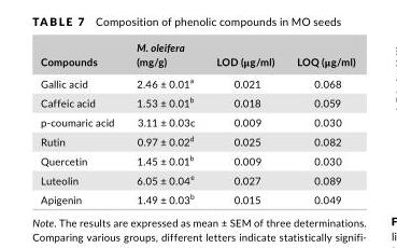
<table><thead><tr><td>Compounds</td><td>M. oleifera (mg/g)</td><td>LOD (μg/ml)</td><td>LOQ (μg/ml)</td></tr></thead><tbody><tr><td>Gallic acid</td><td>2.46 ± 0.01<sup>a</sup></td><td>0.021</td><td>0.068</td></tr><tr><td>Caffeic acid</td><td>1.53 ± 0.01<sup>b</sup></td><td>0.018</td><td>0.059</td></tr><tr><td>p- coumaric acid</td><td>3.11 ± 0.03c</td><td>0.009</td><td>0.030</td></tr><tr><td>Rutin</td><td>0.97 ± 0.02<sup>d</sup></td><td>0.025</td><td>0.082</td></tr><tr><td>Quercetin</td><td>1.45 ± 0.01<sup>b</sup></td><td>0.009</td><td>0.030</td></tr><tr><td>Luteolin</td><td>6.05 ± 0.04<sup>e</sup></td><td>0.027</td><td>0.089</td></tr><tr><td>Apigenin</td><td>1.49 ± 0.03<sup>b</sup></td><td>0.015</td><td>0.049</td></tr></tbody></table>